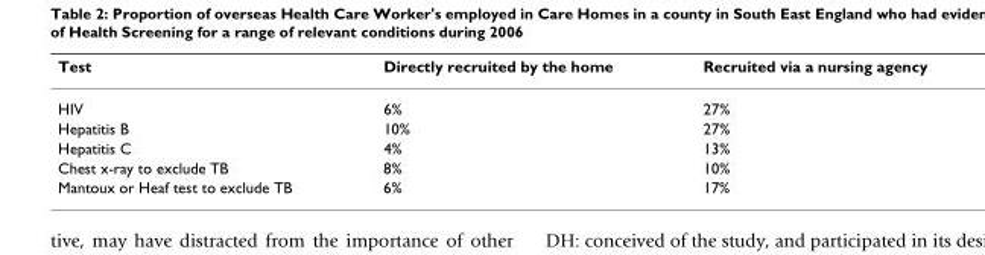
<table><thead><tr><td>Test</td><td>Directly recruited by the home</td><td>Recruited via a nursing agency</td></tr></thead><tbody><tr><td>HIV</td><td>6%</td><td>27%</td></tr><tr><td>Hepatitis B</td><td>10%</td><td>27%</td></tr><tr><td>Hepatitis C</td><td>4%</td><td>13%</td></tr><tr><td>Chest x-ray to exclude TB</td><td>8%</td><td>10%</td></tr><tr><td>Mantoux or Heaf test to exclude TB</td><td>6%</td><td>17%</td></tr></tbody></table>